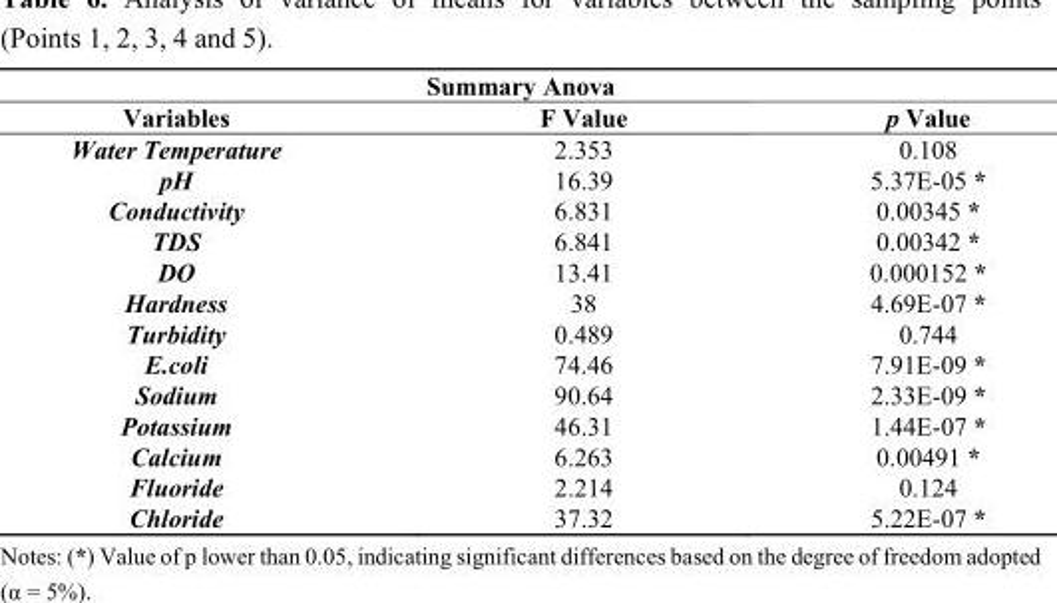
<table><thead><tr><td colspan="3">Summary Anova</td></tr><tr><td>Variables</td><td>F Value</td><td>p Value</td></tr></thead><tbody><tr><td>Water Temperature</td><td>2.353</td><td>0.108</td></tr><tr><td>pH</td><td>16.39</td><td>5.37E-05 *</td></tr><tr><td>Conductivity</td><td>6.831</td><td>0.00345 *</td></tr><tr><td>TDS</td><td>6.841</td><td>0.00342 *</td></tr><tr><td>DO</td><td>13.41</td><td>0.000152 *</td></tr><tr><td>Hardness</td><td>38</td><td>4.69E-07 *</td></tr><tr><td>Turbidity</td><td>0.489</td><td>0.744</td></tr><tr><td>E.coli</td><td>74.46</td><td>7.91E-09 *</td></tr><tr><td>Sodium</td><td>90.64</td><td>2.33E-09 *</td></tr><tr><td>Potassium</td><td>46.31</td><td>1.44E-07 *</td></tr><tr><td>Calcium</td><td>6.263</td><td>0.00491 *</td></tr><tr><td>Fluoride</td><td>2.214</td><td>0.124</td></tr><tr><td>Chloride</td><td>37.32</td><td>5.22E-07 *</td></tr></tbody></table>